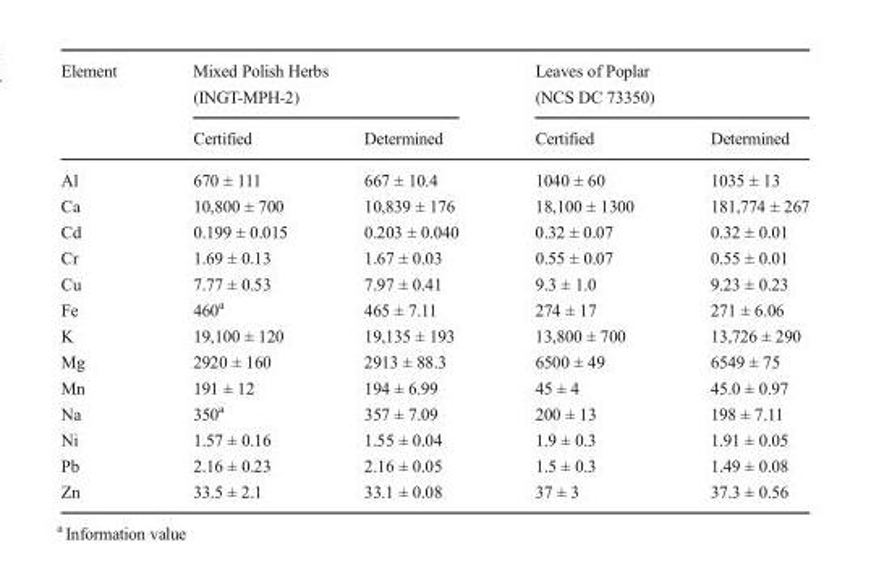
<table><thead><tr><td rowspan="2">Element</td><td colspan="2">Mixed Polish Herbs (INGT-MPH-2)</td><td colspan="2">Leaves of Poplar (NCS DC 73350)</td></tr><tr><td>Certified</td><td>Determined</td><td>Certified</td><td>Determined</td></tr></thead><tbody><tr><td>Al</td><td>670 ± 111</td><td>667 ± 10.4</td><td>1040 ± 60</td><td>1035 ± 13</td></tr><tr><td>Ca</td><td>10,800 ± 700</td><td>10,839 ± 176</td><td>18,100 ± 1300</td><td>181,774 ± 267</td></tr><tr><td>Cd</td><td>0.199 ± 0.015</td><td>0.203 ± 0.040</td><td>0.32 ± 0.07</td><td>0.32 ± 0.01</td></tr><tr><td>Cr</td><td>1.69 ± 0.13</td><td>1.67 ± 0.03</td><td>0.55 ± 0.07</td><td>0.55 ± 0.01</td></tr><tr><td>Cu</td><td>7.77 ± 0.53</td><td>7.97 ± 0.41</td><td>9.3 ± 1.0</td><td>9.23 ± 0.23</td></tr><tr><td>Fe</td><td>460<sup>a</sup></td><td>465 ± 7.11</td><td>274 ± 17</td><td>271 ± 6.06</td></tr><tr><td>K</td><td>19,100 ± 120</td><td>19,135 ± 193</td><td>13,800 ± 700</td><td>13,726 ± 290</td></tr><tr><td>Mg</td><td>2920 ± 160</td><td>2913 ± 88.3</td><td>6500 ± 49</td><td>6549 ± 75</td></tr><tr><td>Mn</td><td>191 ± 12</td><td>194 ± 6.99</td><td>45 ± 4</td><td>45.0 ± 0.97</td></tr><tr><td>Na</td><td>350<sup>a</sup></td><td>357 ± 7.09</td><td>200 ± 13</td><td>198 ± 7.11</td></tr><tr><td>Ni</td><td>1.57 ± 0.16</td><td>1.55 ± 0.04</td><td>1.9 ± 0.3</td><td>1.91 ± 0.05</td></tr><tr><td>Pb</td><td>2.16 ± 0.23</td><td>2.16 ± 0.05</td><td>1.5 ± 0.3</td><td>1.49 ± 0.08</td></tr><tr><td>Zn</td><td>33.5 ± 2.1</td><td>33.1 ± 0.08</td><td>37 ± 3</td><td>37.3 ± 0.56</td></tr></tbody></table>